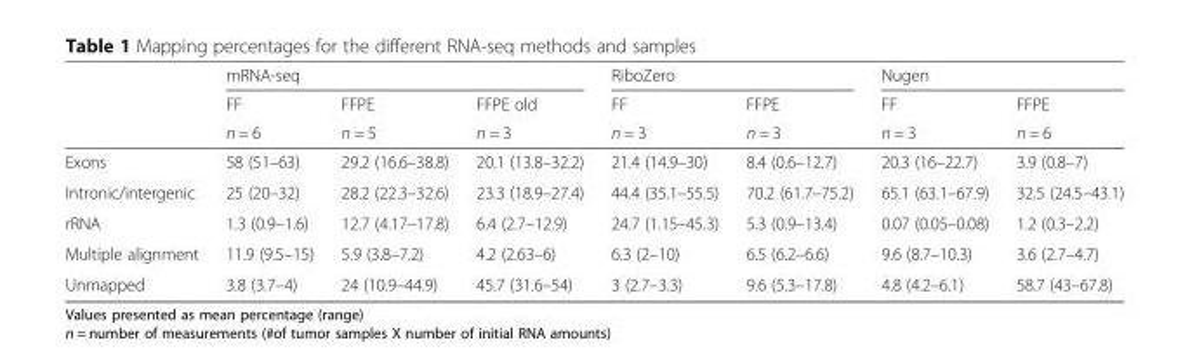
<table><thead><tr><td rowspan="3"></td><td colspan="3">mRNA-seq</td><td colspan="2">RiboZero</td><td colspan="2">Nugen</td></tr><tr><td rowspan="2">FF n = 6</td><td rowspan="2">FFPE n = 5</td><td rowspan="2">FFPE old n = 3</td><td rowspan="2">FF n = 3</td><td rowspan="2">FFPE n = 3</td><td rowspan="2">FF n = 3</td><td rowspan="2">FFPE n = 6</td></tr><tr></tr></thead><tbody><tr><td>Exons</td><td>58 (51–63)</td><td>29.2 (16.6–38.8)</td><td>20.1 (13.8–32.2)</td><td>21.4 (14.9–30)</td><td>8.4 (0.6–12.7)</td><td>20.3 (16–22.7)</td><td>3.9 (0.8–7)</td></tr><tr><td>Intronic/intergenic</td><td>25 (20–32)</td><td>28.2 (22.3–32.6)</td><td>23.3 (18.9–27.4)</td><td>44.4 (35.1–55.5)</td><td>70.2 (61.7–75.2)</td><td>65.1 (63.1–67.9)</td><td>32.5 (24.5–43.1)</td></tr><tr><td>rRNA</td><td>1.3 (0.9–1.6)</td><td>12.7 (4.17–17.8)</td><td>6.4 (2.7–12.9)</td><td>24.7 (1.15–45.3)</td><td>5.3 (0.9–13.4)</td><td>0.07 (0.05–0.08)</td><td>1.2 (0.3–2.2)</td></tr><tr><td>Multiple alignment</td><td>11.9 (9.5–15)</td><td>5.9 (3.8–7.2)</td><td>4.2 (2.63–6)</td><td>6.3 (2–10)</td><td>6.5 (6.2–6.6)</td><td>9.6 (8.7–10.3)</td><td>3.6 (2.7–4.7)</td></tr><tr><td>Unmapped</td><td>3.8 (3.7–4)</td><td>24 (10.9–44.9)</td><td>45.7 (31.6–54)</td><td>3 (2.7–3.3)</td><td>9.6 (5.3–17.8)</td><td>4.8 (4.2–6.1)</td><td>58.7 (43–67.8)</td></tr></tbody></table>